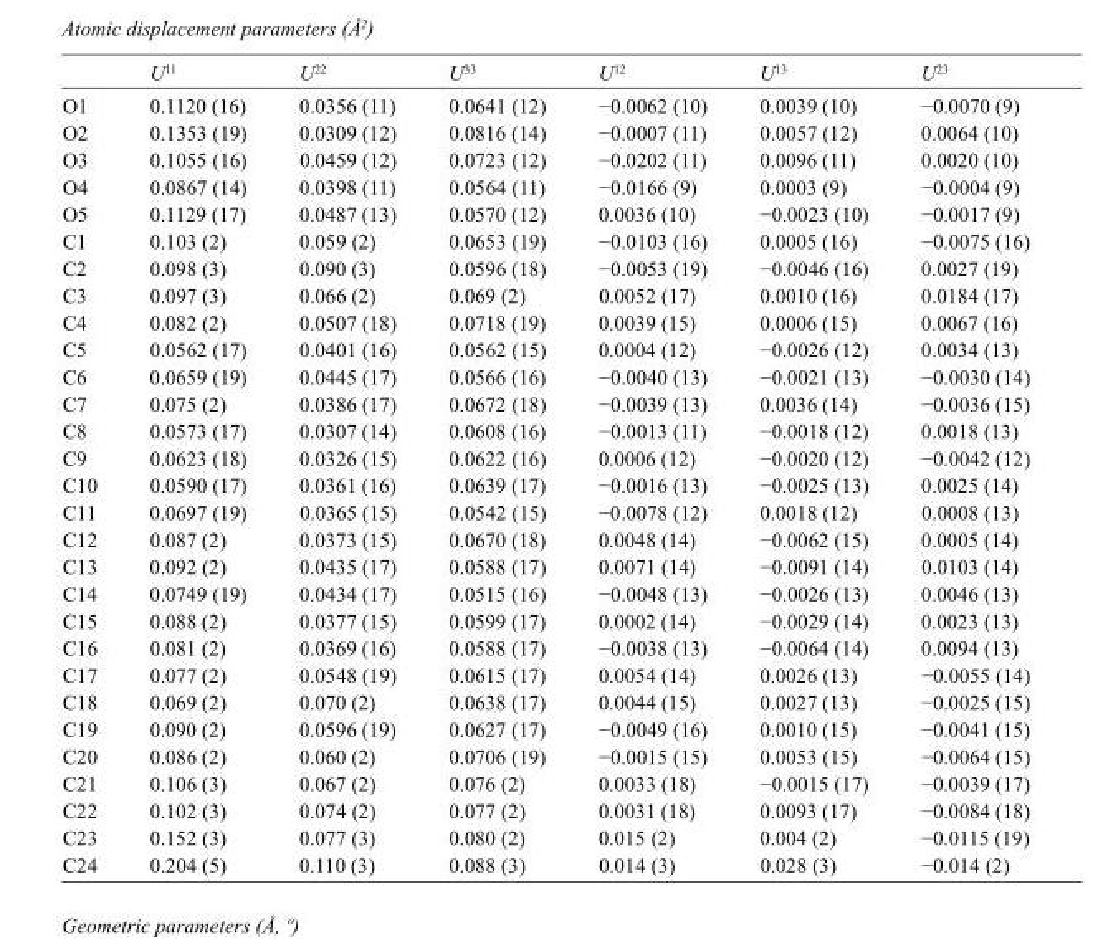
<table><thead><tr><td></td><td>U<sup>11</sup></td><td>U<sup>22</sup></td><td>U<sup>33</sup></td><td>U<sup>12</sup></td><td>U<sup>13</sup></td><td>U<sup>23</sup></td></tr></thead><tbody><tr><td>O1</td><td>0.1120 (16)</td><td>0.0356 (11)</td><td>0.0641 (12)</td><td>−0.0062 (10)</td><td>0.0039 (10)</td><td>−0.0070 (9)</td></tr><tr><td>O2</td><td>0.1353 (19)</td><td>0.0309 (12)</td><td>0.0816 (14)</td><td>−0.0007 (11)</td><td>0.0057 (12)</td><td>0.0064 (10)</td></tr><tr><td>O3</td><td>0.1055 (16)</td><td>0.0459 (12)</td><td>0.0723 (12)</td><td>−0.0202 (11)</td><td>0.0096 (11)</td><td>0.0020 (10)</td></tr><tr><td>O4</td><td>0.0867 (14)</td><td>0.0398 (11)</td><td>0.0564 (11)</td><td>−0.0166 (9)</td><td>0.0003 (9)</td><td>−0.0004 (9)</td></tr><tr><td>O5</td><td>0.1129 (17)</td><td>0.0487 (13)</td><td>0.0570 (12)</td><td>0.0036 (10)</td><td>−0.0023 (10)</td><td>−0.0017 (9)</td></tr><tr><td>C1</td><td>0.103 (2)</td><td>0.059 (2)</td><td>0.0653 (19)</td><td>−0.0103 (16)</td><td>0.0005 (16)</td><td>−0.0075 (16)</td></tr><tr><td>C2</td><td>0.098 (3)</td><td>0.090 (3)</td><td>0.0596 (18)</td><td>−0.0053 (19)</td><td>−0.0046 (16)</td><td>0.0027 (19)</td></tr><tr><td>C3</td><td>0.097 (3)</td><td>0.066 (2)</td><td>0.069 (2)</td><td>0.0052 (17)</td><td>0.0010 (16)</td><td>0.0184 (17)</td></tr><tr><td>C4</td><td>0.082 (2)</td><td>0.0507 (18)</td><td>0.0718 (19)</td><td>0.0039 (15)</td><td>0.0006 (15)</td><td>0.0067 (16)</td></tr><tr><td>C5</td><td>0.0562 (17)</td><td>0.0401 (16)</td><td>0.0562 (15)</td><td>0.0004 (12)</td><td>−0.0026 (12)</td><td>0.0034 (13)</td></tr><tr><td>C6</td><td>0.0659 (19)</td><td>0.0445 (17)</td><td>0.0566 (16)</td><td>−0.0040 (13)</td><td>−0.0021 (13)</td><td>−0.0030 (14)</td></tr><tr><td>C7</td><td>0.075 (2)</td><td>0.0386 (17)</td><td>0.0672 (18)</td><td>−0.0039 (13)</td><td>0.0036 (14)</td><td>−0.0036 (15)</td></tr><tr><td>C8</td><td>0.0573 (17)</td><td>0.0307 (14)</td><td>0.0608 (16)</td><td>−0.0013 (11)</td><td>−0.0018 (12)</td><td>0.0018 (13)</td></tr><tr><td>C9</td><td>0.0623 (18)</td><td>0.0326 (15)</td><td>0.0622 (16)</td><td>0.0006 (12)</td><td>−0.0020 (12)</td><td>−0.0042 (12)</td></tr><tr><td>C10</td><td>0.0590 (17)</td><td>0.0361 (16)</td><td>0.0639 (17)</td><td>−0.0016 (13)</td><td>−0.0025 (13)</td><td>0.0025 (14)</td></tr><tr><td>C11</td><td>0.0697 (19)</td><td>0.0365 (15)</td><td>0.0542 (15)</td><td>−0.0078 (12)</td><td>0.0018 (12)</td><td>0.0008 (13)</td></tr><tr><td>C12</td><td>0.087 (2)</td><td>0.0373 (15)</td><td>0.0670 (18)</td><td>0.0048 (14)</td><td>−0.0062 (15)</td><td>0.0005 (14)</td></tr><tr><td>C13</td><td>0.092 (2)</td><td>0.0435 (17)</td><td>0.0588 (17)</td><td>0.0071 (14)</td><td>−0.0091 (14)</td><td>0.0103 (14)</td></tr><tr><td>C14</td><td>0.0749 (19)</td><td>0.0434 (17)</td><td>0.0515 (16)</td><td>−0.0048 (13)</td><td>−0.0026 (13)</td><td>0.0046 (13)</td></tr><tr><td>C15</td><td>0.088 (2)</td><td>0.0377 (15)</td><td>0.0599 (17)</td><td>0.0002 (14)</td><td>−0.0029 (14)</td><td>0.0023 (13)</td></tr><tr><td>C16</td><td>0.081 (2)</td><td>0.0369 (16)</td><td>0.0588 (17)</td><td>−0.0038 (13)</td><td>−0.0064 (14)</td><td>0.0094 (13)</td></tr><tr><td>C17</td><td>0.077 (2)</td><td>0.0548 (19)</td><td>0.0615 (17)</td><td>0.0054 (14)</td><td>0.0026 (13)</td><td>−0.0055 (14)</td></tr><tr><td>C18</td><td>0.069 (2)</td><td>0.070 (2)</td><td>0.0638 (17)</td><td>0.0044 (15)</td><td>0.0027 (13)</td><td>−0.0025 (15)</td></tr><tr><td>C19</td><td>0.090 (2)</td><td>0.0596 (19)</td><td>0.0627 (17)</td><td>−0.0049 (16)</td><td>0.0010 (15)</td><td>−0.0041 (15)</td></tr><tr><td>C20</td><td>0.086 (2)</td><td>0.060 (2)</td><td>0.0706 (19)</td><td>−0.0015 (15)</td><td>0.0053 (15)</td><td>−0.0064 (15)</td></tr><tr><td>C21</td><td>0.106 (3)</td><td>0.067 (2)</td><td>0.076 (2)</td><td>0.0033 (18)</td><td>−0.0015 (17)</td><td>−0.0039 (17)</td></tr><tr><td>C22</td><td>0.102 (3)</td><td>0.074 (2)</td><td>0.077 (2)</td><td>0.0031 (18)</td><td>0.0093 (17)</td><td>−0.0084 (18)</td></tr><tr><td>C23</td><td>0.152 (3)</td><td>0.077 (3)</td><td>0.080 (2)</td><td>0.015 (2)</td><td>0.004 (2)</td><td>−0.0115 (19)</td></tr><tr><td>C24</td><td>0.204 (5)</td><td>0.110 (3)</td><td>0.088 (3)</td><td>0.014 (3)</td><td>0.028 (3)</td><td>−0.014 (2)</td></tr></tbody></table>